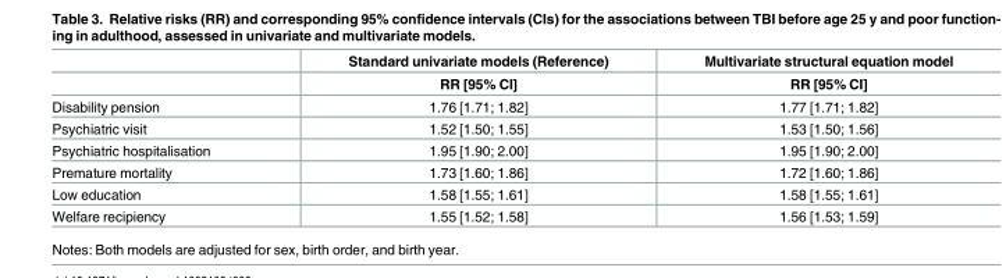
<table><thead><tr><td rowspan="2"></td><td rowspan="2">Standard univariate models (Reference) RR [95% CI]</td><td rowspan="2">Multivariate structural equation model RR [95% CI]</td></tr><tr></tr></thead><tbody><tr><td>Disability pension</td><td>1.76 [1.71; 1.82]</td><td>1.77 [1.71; 1.82]</td></tr><tr><td>Psychiatric visit</td><td>1.52 [1.50; 1.55]</td><td>1.53 [1.50; 1.56]</td></tr><tr><td>Psychiatric hospitalisation</td><td>1.95 [1.90; 2.00]</td><td>1.95 [1.90; 2.00]</td></tr><tr><td>Premature mortality</td><td>1.73 [1.60; 1.86]</td><td>1.72 [1.60; 1.86]</td></tr><tr><td>Low education</td><td>1.58 [1.55; 1.61]</td><td>1.58 [1.55; 1.61]</td></tr><tr><td>Welfare recipiency</td><td>1.55 [1.52; 1.58]</td><td>1.56 [1.53; 1.59]</td></tr></tbody></table>